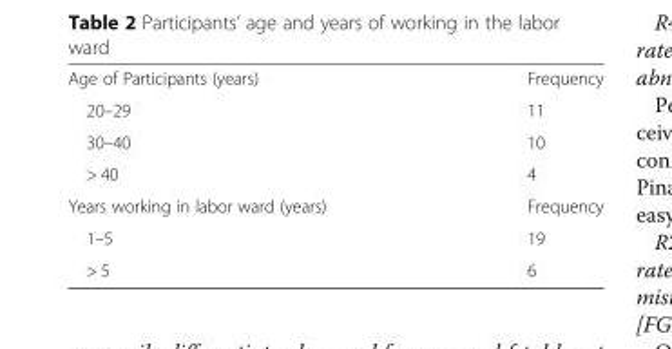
<table><tbody><tr><td>Age of Participants (years)</td><td>Frequency</td></tr><tr><td>20–29</td><td>11</td></tr><tr><td>30–40</td><td>10</td></tr><tr><td>&gt; 40</td><td>4</td></tr><tr><td>Years working in labor ward (years)</td><td>Frequency</td></tr><tr><td>1–5</td><td>19</td></tr><tr><td>&gt; 5</td><td>6</td></tr></tbody></table>